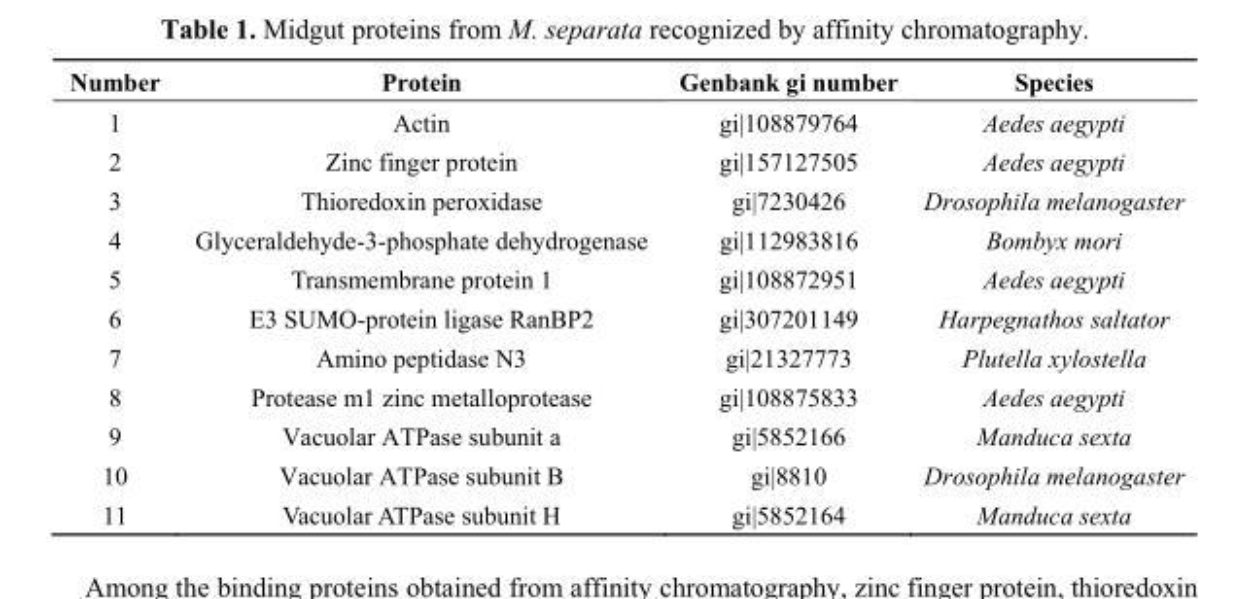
<table><thead><tr><td>Number</td><td>Protein</td><td>Genbank gi number</td><td>Species</td></tr></thead><tbody><tr><td>1</td><td>Actin</td><td>gi|108879764</td><td>Aedes aegypti</td></tr><tr><td>2</td><td>Zinc finger protein</td><td>gi|157127505</td><td>Aedes aegypti</td></tr><tr><td>3</td><td>Thioredoxin peroxidase</td><td>gi|7230426</td><td>Drosophila melanogaster</td></tr><tr><td>4</td><td>Glyceraldehyde-3-phosphate dehydrogenase</td><td>gi|112983816</td><td>Bombyx mori</td></tr><tr><td>5</td><td>Transmembrane protein 1</td><td>gi|108872951</td><td>Aedes aegypti</td></tr><tr><td>6</td><td>E3 SUMO-protein ligase RanBP2</td><td>gi|307201149</td><td>Harpegnathos saltator</td></tr><tr><td>7</td><td>Amino peptidase N3</td><td>gi|21327773</td><td>Plutella xylostella</td></tr><tr><td>8</td><td>Protease m1 zinc metalloprotease</td><td>gi|108875833</td><td>Aedes aegypti</td></tr><tr><td>9</td><td>Vacuolar ATPase subunit a</td><td>gi|5852166</td><td>Manduca sexta</td></tr><tr><td>10</td><td>Vacuolar ATPase subunit B</td><td>gi|8810</td><td>Drosophila melanogaster</td></tr><tr><td>11</td><td>Vacuolar ATPase subunit H</td><td>gi|5852164</td><td>Manduca sexta</td></tr></tbody></table>